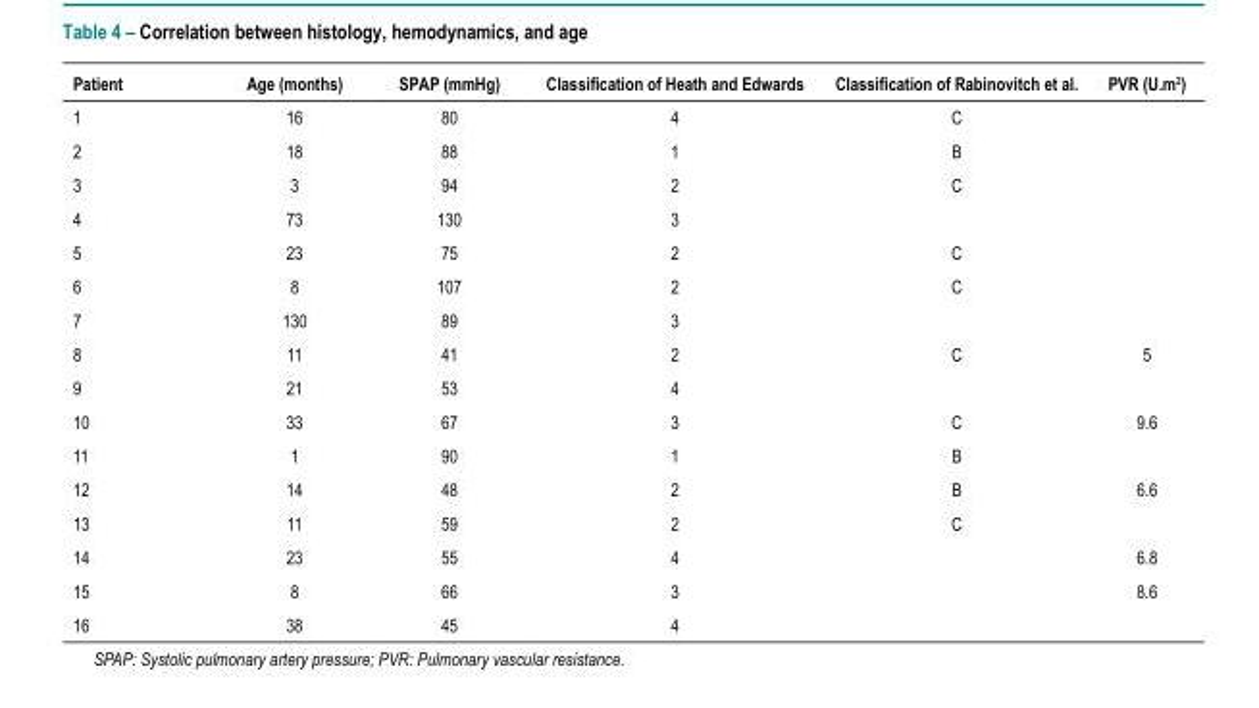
<table><thead><tr><td>Patient</td><td>Age (months)</td><td>SPAP (mmHg)</td><td>Classification of Heath and Edwards</td><td>Classification of Rabinovitch et al.</td><td>PVR (U.m<sup>2</sup>)</td></tr></thead><tbody><tr><td>1</td><td>16</td><td>80</td><td>4</td><td>C</td><td></td></tr><tr><td>2</td><td>18</td><td>88</td><td>1</td><td>B</td><td></td></tr><tr><td>3</td><td>3</td><td>94</td><td>2</td><td>C</td><td></td></tr><tr><td>4</td><td>73</td><td>130</td><td>3</td><td></td><td></td></tr><tr><td>5</td><td>23</td><td>75</td><td>2</td><td>C</td><td></td></tr><tr><td>6</td><td>8</td><td>107</td><td>2</td><td>C</td><td></td></tr><tr><td>7</td><td>130</td><td>89</td><td>3</td><td></td><td></td></tr><tr><td>8</td><td>11</td><td>41</td><td>2</td><td>C</td><td>5</td></tr><tr><td>9</td><td>21</td><td>53</td><td>4</td><td></td><td></td></tr><tr><td>10</td><td>33</td><td>67</td><td>3</td><td>C</td><td>9.6</td></tr><tr><td>11</td><td>1</td><td>90</td><td>1</td><td>B</td><td></td></tr><tr><td>12</td><td>14</td><td>48</td><td>2</td><td>B</td><td>6.6</td></tr><tr><td>13</td><td>11</td><td>59</td><td>2</td><td>C</td><td></td></tr><tr><td>14</td><td>23</td><td>55</td><td>4</td><td></td><td>6.8</td></tr><tr><td>15</td><td>8</td><td>66</td><td>3</td><td></td><td>8.6</td></tr><tr><td>16</td><td>38</td><td>45</td><td>4</td><td></td><td></td></tr></tbody></table>